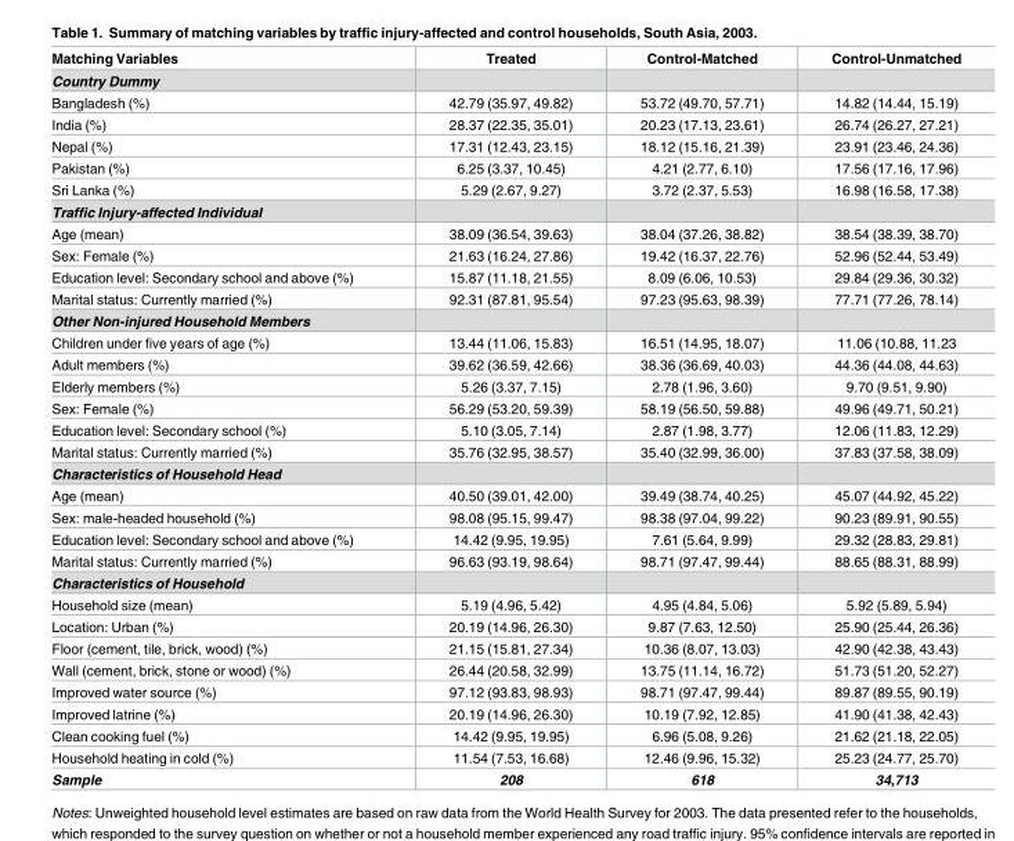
<table><thead><tr><td>Matching Variables</td><td>Treated</td><td>Control-Matched</td><td>Control-Unmatched</td></tr></thead><tbody><tr><td colspan="4">Country Dummy</td></tr><tr><td>Bangladesh (%)</td><td>42.79 (35.97, 49.82)</td><td>53.72 (49.70, 57.71)</td><td>14.82 (14.44, 15.19)</td></tr><tr><td>India (%)</td><td>28.37 (22.35, 35.01)</td><td>20.23 (17.13, 23.61)</td><td>26.74 (26.27, 27.21)</td></tr><tr><td>Nepal (%)</td><td>17.31 (12.43, 23.15)</td><td>18.12 (15.16, 21.39)</td><td>23.91 (23.46, 24.36)</td></tr><tr><td>Pakistan (%)</td><td>6.25 (3.37, 10.45)</td><td>4.21 (2.77, 6.10)</td><td>17.56 (17.16, 17.96)</td></tr><tr><td>Sri Lanka (%)</td><td>5.29 (2.67, 9.27)</td><td>3.72 (2.37, 5.53)</td><td>16.98 (16.58, 17.38)</td></tr><tr><td colspan="4">Traffic Injury-affected Individual</td></tr><tr><td>Age (mean)</td><td>38.09 (36.54, 39.63)</td><td>38.04 (37.26, 38.82)</td><td>38.54 (38.39, 38.70)</td></tr><tr><td>Sex: Female (%)</td><td>21.63 (16.24, 27.86)</td><td>19.42 (16.37, 22.76)</td><td>52.96 (52.44, 53.49)</td></tr><tr><td>Education level: Secondary school and above (%)</td><td>15.87 (11.18, 21.55)</td><td>8.09 (6.06, 10.53)</td><td>29.84 (29.36, 30.32)</td></tr><tr><td>Marital status: Currently married (%)</td><td>92.31 (87.81, 95.54)</td><td>97.23 (95.63, 98.39)</td><td>77.71 (77.26, 78.14)</td></tr><tr><td colspan="4">Other Non-injured Household Members</td></tr><tr><td>Children under five years of age (%)</td><td>13.44 (11.06, 15.83)</td><td>16.51 (14.95, 18.07)</td><td>11.06 (10.88, 11.23</td></tr><tr><td>Adult members (%)</td><td>39.62 (36.59, 42.66)</td><td>38.36 (36.69, 40.03)</td><td>44.36 (44.08, 44.63)</td></tr><tr><td>Elderly members (%)</td><td>5.26 (3.37, 7.15)</td><td>2.78 (1.96, 3.60)</td><td>9.70 (9.51, 9.90)</td></tr><tr><td>Sex: Female (%)</td><td>56.29 (53.20, 59.39)</td><td>58.19 (56.50, 59.88)</td><td>49.96 (49.71, 50.21)</td></tr><tr><td>Education level: Secondary school (%)</td><td>5.10 (3.05, 7.14)</td><td>2.87 (1.98, 3.77)</td><td>12.06 (11.83, 12.29)</td></tr><tr><td>Marital status: Currently married (%)</td><td>35.76 (32.95, 38.57)</td><td>35.40 (32.99, 36.00)</td><td>37.83 (37.58, 38.09)</td></tr><tr><td colspan="4">Characteristics of Household Head</td></tr><tr><td>Age (mean)</td><td>40.50 (39.01, 42.00)</td><td>39.49 (38.74, 40.25)</td><td>45.07 (44.92, 45.22)</td></tr><tr><td>Sex: male-headed household (%)</td><td>98.08 (95.15, 99.47)</td><td>98.38 (97.04, 99.22)</td><td>90.23 (89.91, 90.55)</td></tr><tr><td>Education level: Secondary school and above (%)</td><td>14.42 (9.95, 19.95)</td><td>7.61 (5.64, 9.99)</td><td>29.32 (28.83, 29.81)</td></tr><tr><td>Marital status: Currently married (%)</td><td>96.63 (93.19, 98.64)</td><td>98.71 (97.47, 99.44)</td><td>88.65 (88.31, 88.99)</td></tr><tr><td colspan="4">Characteristics of Household</td></tr><tr><td>Household size (mean)</td><td>5.19 (4.96, 5.42)</td><td>4.95 (4.84, 5.06)</td><td>5.92 (5.89, 5.94)</td></tr><tr><td>Location: Urban (%)</td><td>20.19 (14.96, 26.30)</td><td>9.87 (7.63, 12.50)</td><td>25.90 (25.44, 26.36)</td></tr><tr><td>Floor (cement, tile, brick, wood) (%)</td><td>21.15 (15.81, 27.34)</td><td>10.36 (8.07, 13.03)</td><td>42.90 (42.38, 43.43)</td></tr><tr><td>Wall (cement, brick, stone or wood) (%)</td><td>26.44 (20.58, 32.99)</td><td>13.75 (11.14, 16.72)</td><td>51.73 (51.20, 52.27)</td></tr><tr><td>Improved water source (%)</td><td>97.12 (93.83, 98.93)</td><td>98.71 (97.47, 99.44)</td><td>89.87 (89.55, 90.19)</td></tr><tr><td>Improved latrine (%)</td><td>20.19 (14.96, 26.30)</td><td>10.19 (7.92, 12.85)</td><td>41.90 (41.38, 42.43)</td></tr><tr><td>Clean cooking fuel (%)</td><td>14.42 (9.95, 19.95)</td><td>6.96 (5.08, 9.26)</td><td>21.62 (21.18, 22.05)</td></tr><tr><td>Household heating in cold (%)</td><td>11.54 (7.53, 16.68)</td><td>12.46 (9.96, 15.32)</td><td>25.23 (24.77, 25.70)</td></tr><tr><td>Sample</td><td>208</td><td>618</td><td>34,713</td></tr></tbody></table>